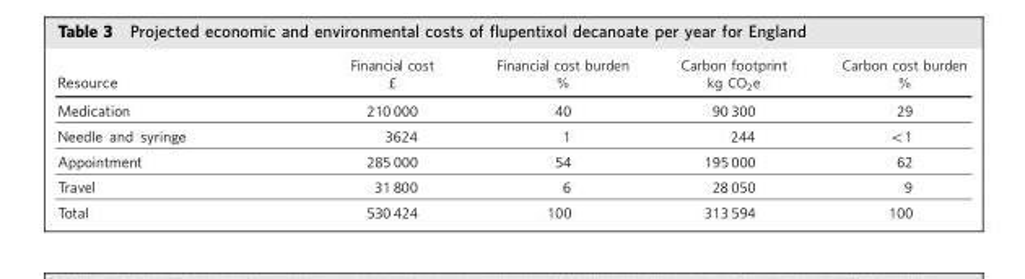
<table><thead><tr><td>Resource</td><td>Financial cost »</td><td>Financial cost burden %</td><td>Carbon footprint kg CO<sub>2</sub>e</td><td>Carbon cost burden %</td></tr></thead><tbody><tr><td>Medication</td><td>210 000</td><td>40</td><td>90 300</td><td>29</td></tr><tr><td>Needle and syringe</td><td>3624</td><td>1</td><td>244</td><td>&lt;1</td></tr><tr><td>Appointment</td><td>285 000</td><td>54</td><td>195 000</td><td>62</td></tr><tr><td>Travel</td><td>31 800</td><td>6</td><td>28 050</td><td>9</td></tr><tr><td>Total</td><td>530 424</td><td>100</td><td>313 594</td><td>100</td></tr></tbody></table>